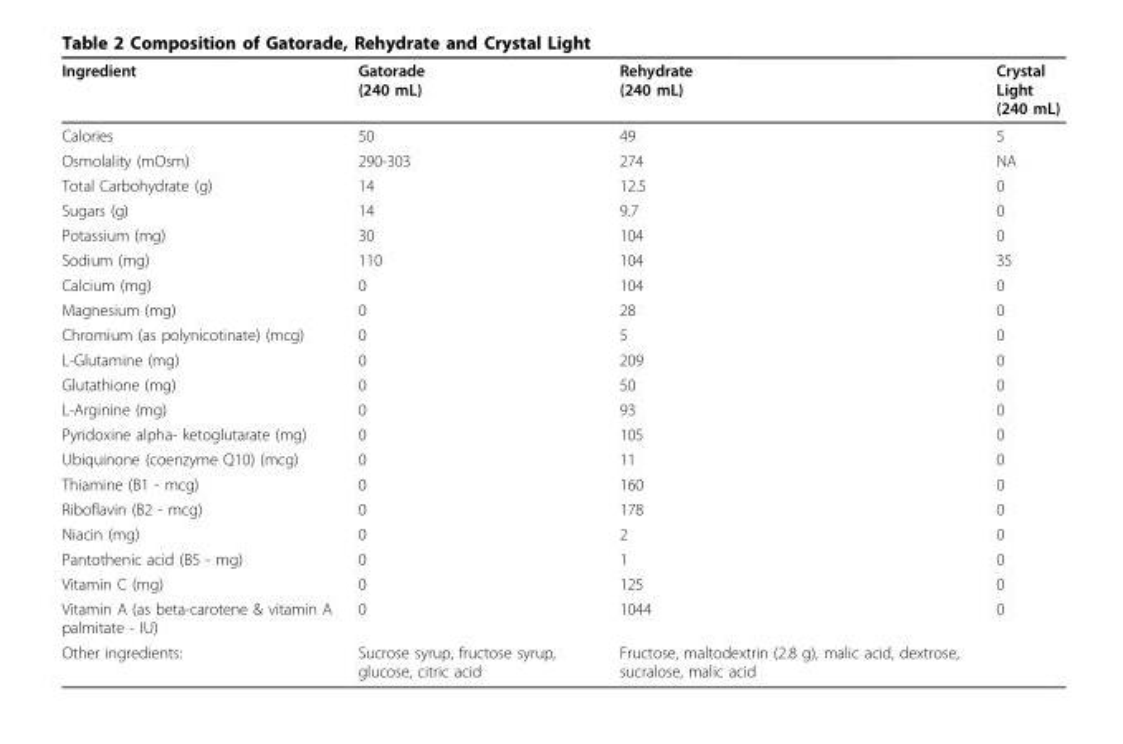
<table><thead><tr><td>Ingredient</td><td>Gatorade (240 mL)</td><td>Rehydrate (240 mL)</td><td>Crystal Light (240 mL)</td></tr></thead><tbody><tr><td>Calories</td><td>50</td><td>49</td><td>5</td></tr><tr><td>Osmolality (mOsm)</td><td>290-303</td><td>274</td><td>NA</td></tr><tr><td>Total Carbohydrate (g)</td><td>14</td><td>12.5</td><td>0</td></tr><tr><td>Sugars (g)</td><td>14</td><td>9.7</td><td>0</td></tr><tr><td>Potassium (mg)</td><td>30</td><td>104</td><td>0</td></tr><tr><td>Sodium (mg)</td><td>110</td><td>104</td><td>35</td></tr><tr><td>Calcium (mg)</td><td>0</td><td>104</td><td>0</td></tr><tr><td>Magnesium (mg)</td><td>0</td><td>28</td><td>0</td></tr><tr><td>Chromium (as polynicotinate) (mcg)</td><td>0</td><td>5</td><td>0</td></tr><tr><td>L-Glutamine (mg)</td><td>0</td><td>209</td><td>0</td></tr><tr><td>Glutathione (mg)</td><td>0</td><td>50</td><td>0</td></tr><tr><td>L-Arginine (mg)</td><td>0</td><td>93</td><td>0</td></tr><tr><td>Pyridoxine alpha- ketoglutarate (mg)</td><td>0</td><td>105</td><td>0</td></tr><tr><td>Ubiquinone (coenzyme Q10) (mcg)</td><td>0</td><td>11</td><td>0</td></tr><tr><td>Thiamine (B1 - mcg)</td><td>0</td><td>160</td><td>0</td></tr><tr><td>Riboflavin (B2 - mcg)</td><td>0</td><td>178</td><td>0</td></tr><tr><td>Niacin (mg)</td><td>0</td><td>2</td><td>0</td></tr><tr><td>Pantothenic acid (B5 - mg)</td><td>0</td><td>1</td><td>0</td></tr><tr><td>Vitamin C (mg)</td><td>0</td><td>125</td><td>0</td></tr><tr><td>Vitamin A (as beta-carotene &amp; vitamin A palmitate - IU)</td><td>0</td><td>1044</td><td>0</td></tr><tr><td>Other ingredients:</td><td>Sucrose syrup, fructose syrup, glucose, citric acid</td><td>Fructose, maltodextrin (2.8 g), malic acid, dextrose, sucralose, malic acid</td><td></td></tr></tbody></table>